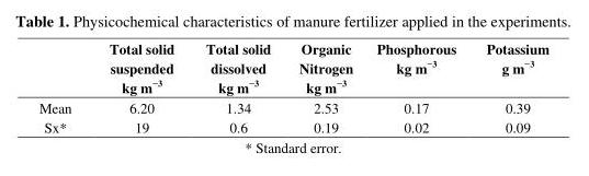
<table><thead><tr><td></td><td>Total solid suspended kg m<sup>−3</sup></td><td>Total solid dissolved kg m<sup>−3</sup></td><td>Organic Nitrogen kg m<sup>−3</sup></td><td>Phosphorous kg m<sup>−3</sup></td><td>Potassium g m<sup>−3</sup></td></tr></thead><tbody><tr><td>Mean</td><td>6.20</td><td>1.34</td><td>2.53</td><td>0.17</td><td>0.39</td></tr><tr><td>Sx*</td><td>19</td><td>0.6</td><td>0.19</td><td>0.02</td><td>0.09</td></tr></tbody></table>